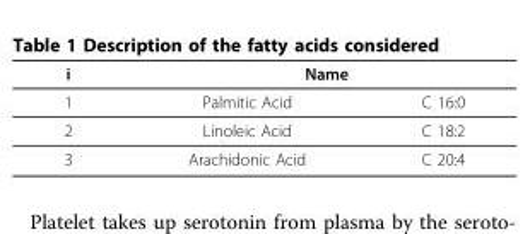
<table><thead><tr><td rowspan="2">i 1</td><td colspan="2">Name</td></tr><tr><td>Palmitic Acid</td><td>C 16:0</td></tr></thead><tbody><tr><td>2</td><td>Linoleic Acid</td><td>C 18:2</td></tr><tr><td>3</td><td>Arachidonic Acid</td><td>C 20:4</td></tr></tbody></table>